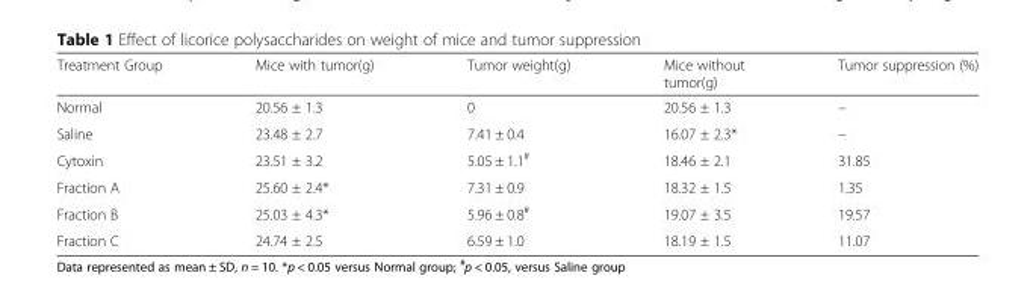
<table><thead><tr><td>Treatment Group</td><td>Mice with tumor(g)</td><td>Tumor weight(g)</td><td>Mice without tumor(g)</td><td>Tumor suppression (%)</td></tr></thead><tbody><tr><td>Normal</td><td>20.56 ± 1.3</td><td>0</td><td>20.56 ± 1.3</td><td>–</td></tr><tr><td>Saline</td><td>23.48 ± 2.7</td><td>7.41 ± 0.4</td><td>16.07 ± 2.3*</td><td>–</td></tr><tr><td>Cytoxin</td><td>23.51 ± 3.2</td><td>5.05 ± 1.1<sup>#</sup></td><td>18.46 ± 2.1</td><td>31.85</td></tr><tr><td>Fraction A</td><td>25.60 ± 2.4*</td><td>7.31 ± 0.9</td><td>18.32 ± 1.5</td><td>1.35</td></tr><tr><td>Fraction B</td><td>25.03 ± 4.3*</td><td>5.96 ± 0.8<sup>#</sup></td><td>19.07 ± 3.5</td><td>19.57</td></tr><tr><td>Fraction C</td><td>24.74 ± 2.5</td><td>6.59 ± 1.0</td><td>18.19 ± 1.5</td><td>11.07</td></tr></tbody></table>